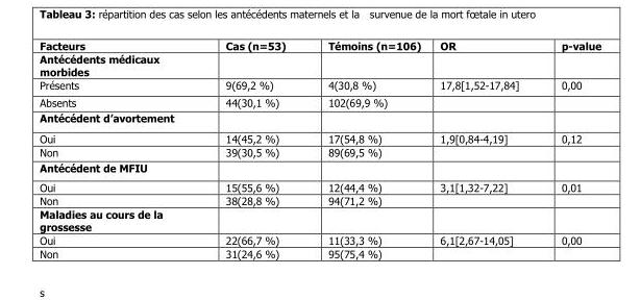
<table><thead><tr><td>Facteurs</td><td>Cas (n=53)</td><td>Témoins (n=106)</td><td>OR</td><td>p-value</td></tr></thead><tbody><tr><td colspan="5">Antécédents médicaux morbides</td></tr><tr><td>Présents</td><td>9(69,2 %)</td><td>4(30,8 %)</td><td>17,8[1,52-17,84]</td><td>0,00</td></tr><tr><td>Absents</td><td>44(30,1 %)</td><td>102(69,9 %)</td><td></td><td></td></tr><tr><td colspan="5">Antécédent d’avortement</td></tr><tr><td>Oui</td><td>14(45,2 %)</td><td>17(54,8 %)</td><td>1,9[0,84-4,19]</td><td>0,12</td></tr><tr><td>Non</td><td>39(30,5 %)</td><td>89(69,5 %)</td><td></td><td></td></tr><tr><td colspan="5">Antécédent de MFIU</td></tr><tr><td>Oui</td><td>15(55,6 %)</td><td>12(44,4 %)</td><td>3,1[1,32-7,22]</td><td>0,01</td></tr><tr><td>Non</td><td>38(28,8 %)</td><td>94(71,2 %)</td><td></td><td></td></tr><tr><td colspan="5">Maladies au cours de la grossesse</td></tr><tr><td>Oui</td><td>22(66,7 %)</td><td>11(33,3 %)</td><td>6,1[2,67-14,05]</td><td>0,00</td></tr><tr><td>Non</td><td>31(24,6 %)</td><td>95(75,4 %)</td><td></td><td></td></tr></tbody></table>